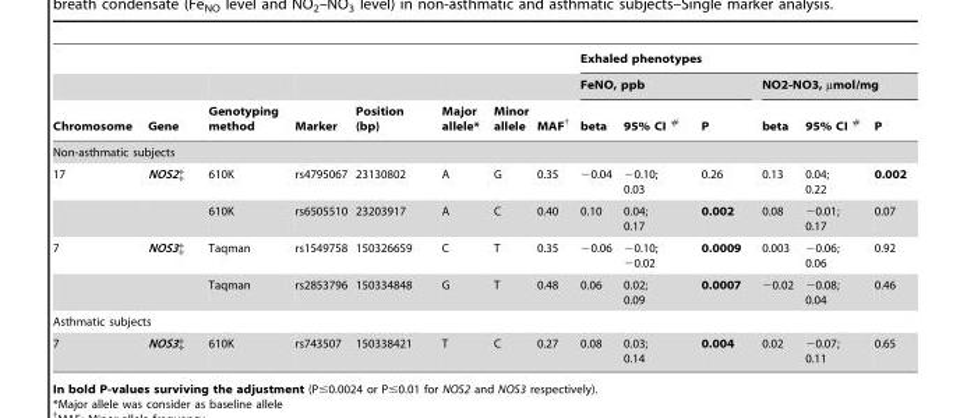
<table><thead><tr><td rowspan="3">Chromosome</td><td rowspan="3">Gene</td><td rowspan="3">Genotyping method</td><td rowspan="3">Marker</td><td rowspan="3">Position (bp)</td><td rowspan="3">Major allele*</td><td rowspan="3">Minor allele</td><td rowspan="3">MAF†</td><td colspan="6">Exhaled phenotypes</td></tr><tr><td colspan="3">FeNO, ppb</td><td colspan="3">NO2-NO3, µmol/mg</td></tr><tr><td>beta</td><td>95% CI #</td><td>P</td><td>beta</td><td>95% CI #</td><td>P</td></tr></thead><tbody><tr><td colspan="14">Non-asthmatic subjects</td></tr><tr><td rowspan="2">17</td><td>NOS2‡</td><td>610K</td><td>rs4795067</td><td>23130802</td><td>A</td><td>G</td><td>0.35</td><td>−0.04</td><td>−0.10; 0.03</td><td>0.26</td><td>0.13</td><td>0.04; 0.22</td><td>0.002</td></tr><tr><td></td><td>610K</td><td>rs6505510</td><td>23203917</td><td>A</td><td>C</td><td>0.40</td><td>0.10</td><td>0.04; 0.17</td><td>0.002</td><td>0.08</td><td>−0.01; 0.17</td><td>0.07</td></tr><tr><td rowspan="2">7</td><td>NOS3‡</td><td>Taqman</td><td>rs1549758</td><td>150326659</td><td>C</td><td>T</td><td>0.35</td><td>−0.06</td><td>−0.10; −0.02</td><td>0.0009</td><td>0.003</td><td>−0.06; 0.06</td><td>0.92</td></tr><tr><td></td><td>Taqman</td><td>rs2853796</td><td>150334848</td><td>G</td><td>T</td><td>0.48</td><td>0.06</td><td>0.02; 0.09</td><td>0.0007</td><td>−0.02</td><td>−0.08; 0.04</td><td>0.46</td></tr><tr><td colspan="14">Asthmatic subjects</td></tr><tr><td>7</td><td>NOS3‡</td><td>610K</td><td>rs743507</td><td>150338421</td><td>T</td><td>C</td><td>0.27</td><td>0.08</td><td>0.03; 0.14</td><td>0.004</td><td>0.02</td><td>−0.07; 0.11</td><td>0.65</td></tr></tbody></table>